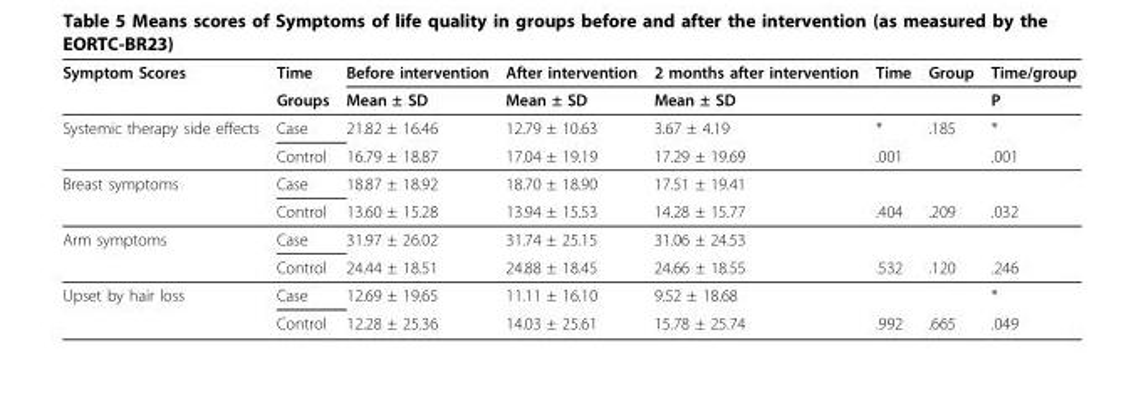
<table><thead><tr><td rowspan="2">Symptom Scores</td><td rowspan="2">Time Groups</td><td rowspan="2">Before intervention Mean ± SD</td><td rowspan="2">After intervention Mean ± SD</td><td rowspan="2">2 months after intervention Mean ± SD</td><td rowspan="2">Time</td><td rowspan="2">Group</td><td rowspan="2">Time/group P</td></tr><tr></tr></thead><tbody><tr><td rowspan="2">Systemic therapy side effects</td><td>Case</td><td>21.82 ± 16.46</td><td>12.79 ± 10.63</td><td>3.67 ± 4.19</td><td>*</td><td>.185</td><td>*</td></tr><tr><td>Control</td><td>16.79 ± 18.87</td><td>17.04 ± 19.19</td><td>17.29 ± 19.69</td><td>.001</td><td></td><td>.001</td></tr><tr><td rowspan="2">Breast symptoms</td><td>Case</td><td>18.87 ± 18.92</td><td>18.70 ± 18.90</td><td>17.51 ± 19.41</td><td></td><td></td><td></td></tr><tr><td>Control</td><td>13.60 ± 15.28</td><td>13.94 ± 15.53</td><td>14.28 ± 15.77</td><td>.404</td><td>.209</td><td>.032</td></tr><tr><td rowspan="2">Arm symptoms</td><td>Case</td><td>31.97 ± 26.02</td><td>31.74 ± 25.15</td><td>31.06 ± 24.53</td><td></td><td></td><td></td></tr><tr><td>Control</td><td>24.44 ± 18.51</td><td>24.88 ± 18.45</td><td>24.66 ± 18.55</td><td>.532</td><td>.120</td><td>.246</td></tr><tr><td rowspan="2">Upset by hair loss</td><td>Case</td><td>12.69 ± 19.65</td><td>11.11 ± 16.10</td><td>9.52 ± 18.68</td><td></td><td></td><td>*</td></tr><tr><td>Control</td><td>12.28 ± 25.36</td><td>14.03 ± 25.61</td><td>15.78 ± 25.74</td><td>.992</td><td>.665</td><td>.049</td></tr></tbody></table>